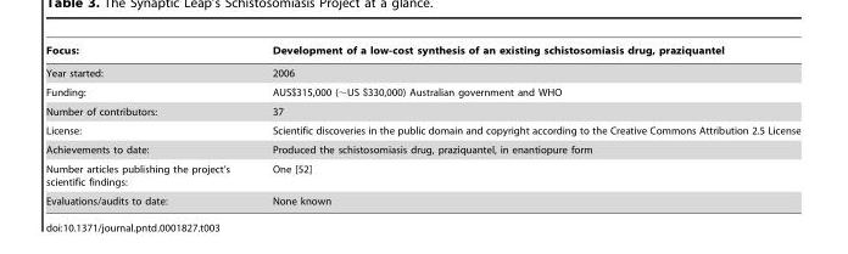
<table><thead><tr><td>Focus:</td><td>Development of a low-cost synthesis of an existing schistosomiasis drug, praziquantel</td></tr></thead><tbody><tr><td>Year started:</td><td>2006</td></tr><tr><td>Funding:</td><td>AUS$315,000 (∼US $330,000) Australian government and WHO</td></tr><tr><td>Number of contributors:</td><td>37</td></tr><tr><td>License:</td><td>Scientific discoveries in the public domain and copyright according to the Creative Commons Attribution 2.5 License</td></tr><tr><td>Achievements to date:</td><td>Produced the schistosomiasis drug, praziquantel, in enantiopure form</td></tr><tr><td>Number articles publishing the project’s scientific findings:</td><td>One [52]</td></tr><tr><td>Evaluations/audits to date:</td><td>None known</td></tr></tbody></table>